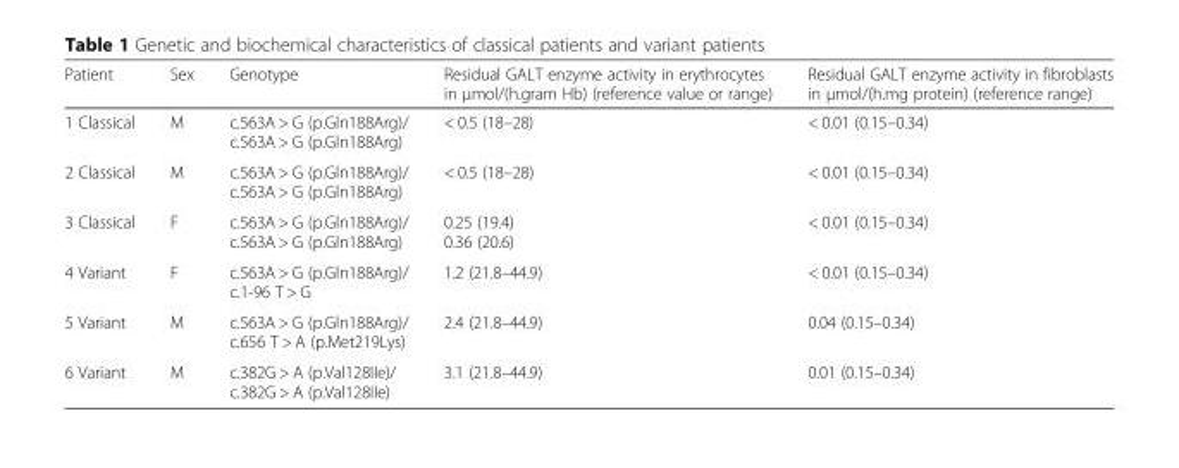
<table><thead><tr><td>Patient</td><td>Sex</td><td>Genotype</td><td>Residual GALT enzyme activity in erythrocytes in μmol/(h.gram Hb) (reference value or range)</td><td>Residual GALT enzyme activity in fibroblasts in μmol/(h.mg protein) (reference range)</td></tr></thead><tbody><tr><td>1 Classical</td><td>M</td><td>c.563A &gt; G (p.Gln188Arg)/ c.563A &gt; G (p.Gln188Arg)</td><td>&lt; 0.5 (18–28)</td><td>&lt; 0.01 (0.15–0.34)</td></tr><tr><td>2 Classical</td><td>M</td><td>c.563A &gt; G (p.Gln188Arg)/ c.563A &gt; G (p.Gln188Arg)</td><td>&lt; 0.5 (18–28)</td><td>&lt; 0.01 (0.15–0.34)</td></tr><tr><td>3 Classical</td><td>F</td><td>c.563A &gt; G (p.Gln188Arg)/ c.563A &gt; G (p.Gln188Arg)</td><td>0.25 (19.4) 0.36 (20.6)</td><td>&lt; 0.01 (0.15–0.34)</td></tr><tr><td>4 Variant</td><td>F</td><td>c.563A &gt; G (p.Gln188Arg)/ c.1-96 T &gt; G</td><td>1.2 (21.8–44.9)</td><td>&lt; 0.01 (0.15–0.34)</td></tr><tr><td>5 Variant</td><td>M</td><td>c.563A &gt; G (p.Gln188Arg)/ c.656 T &gt; A (p.Met219Lys)</td><td>2.4 (21.8–44.9)</td><td>0.04 (0.15–0.34)</td></tr><tr><td>6 Variant</td><td>M</td><td>c.382G &gt; A (p.Val128IIe)/ c.382G &gt; A (p.Val128IIe)</td><td>3.1 (21.8–44.9)</td><td>0.01 (0.15–0.34)</td></tr></tbody></table>